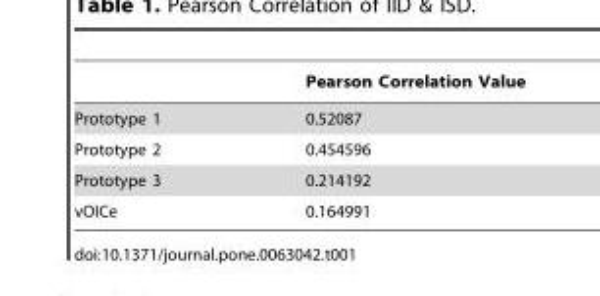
<table><thead><tr><td></td><td>Pearson Correlation Value</td></tr></thead><tbody><tr><td>Prototype 1</td><td>0.52087</td></tr><tr><td>Prototype 2</td><td>0.454596</td></tr><tr><td>Prototype 3</td><td>0.214192</td></tr><tr><td>vOICe</td><td>0.164991</td></tr></tbody></table>